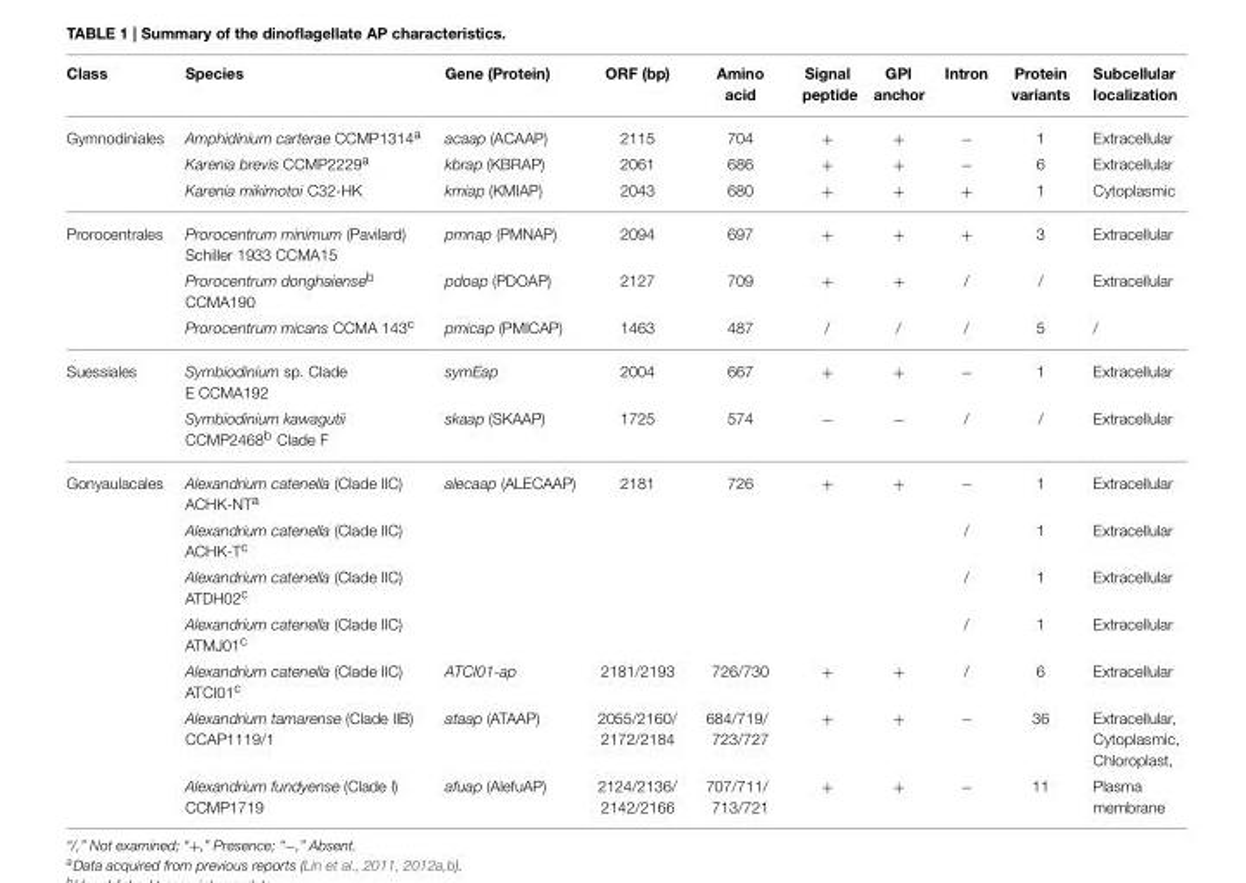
<table><thead><tr><td>Class</td><td>Species</td><td>Gene (Protein)</td><td>ORF (bp)</td><td>Amino acid</td><td>Signal peptide</td><td>GPI anchor</td><td>Intron</td><td>Protein variants</td><td>Subcellular localization</td></tr></thead><tbody><tr><td rowspan="3">Gymnodiniales</td><td>Amphidinium carterae CCMP1314<sup>a</sup></td><td>acaap (ACAAP)</td><td>2115</td><td>704</td><td>+</td><td>+</td><td>−</td><td>1</td><td>Extracellular</td></tr><tr><td>Karenia brevis CCMP2229<sup>a</sup></td><td>kbrap (KBRAP)</td><td>2061</td><td>686</td><td>+</td><td>+</td><td>−</td><td>6</td><td>Extracellular</td></tr><tr><td>Karenia mikimotoi C32-HK</td><td>kmiap (KMIAP)</td><td>2043</td><td>680</td><td>+</td><td>+</td><td>+</td><td>1</td><td>Cytoplasmic</td></tr><tr><td rowspan="3">Prorocentrales</td><td>Prorocentrum minimum (Pavilard) Schiller 1933 CCMA15</td><td>pmnap (PMNAP)</td><td>2094</td><td>697</td><td>+</td><td>+</td><td>+</td><td>3</td><td>Extracellular</td></tr><tr><td>Prorocentrum donghaiense<sup>b</sup> CCMA190</td><td>pdoap (PDOAP)</td><td>2127</td><td>709</td><td>+</td><td>+</td><td>/</td><td>/</td><td>Extracellular</td></tr><tr><td>Prorocentrum micans CCMA 143<sup>c</sup></td><td>pmicap (PMICAP)</td><td>1463</td><td>487</td><td>/</td><td>/</td><td>/</td><td>5</td><td>/</td></tr><tr><td rowspan="2">Suessiales</td><td>Symbiodinium sp. Clade E CCMA192</td><td>symEap</td><td>2004</td><td>667</td><td>+</td><td>+</td><td>−</td><td>1</td><td>Extracellular</td></tr><tr><td>Symbiodinium kawagutii CCMP2468<sup>b</sup> Clade F</td><td>skaap (SKAAP)</td><td>1725</td><td>574</td><td>−</td><td>−</td><td>/</td><td>/</td><td>Extracellular</td></tr><tr><td rowspan="7">Gonyaulacales</td><td>Alexandrium catenella (Clade IIC) ACHK-NT<sup>a</sup></td><td>alecaap (ALECAAP)</td><td>2181</td><td>726</td><td>+</td><td>+</td><td>−</td><td>1</td><td>Extracellular</td></tr><tr><td>Alexandrium catenella (Clade IIC) ACHK-T<sup>c</sup></td><td></td><td></td><td></td><td></td><td></td><td>/</td><td>1</td><td>Extracellular</td></tr><tr><td>Alexandrium catenella (Clade IIC) ATDH02<sup>c</sup></td><td></td><td></td><td></td><td></td><td></td><td>/</td><td>1</td><td>Extracellular</td></tr><tr><td>Alexandrium catenella (Clade IIC) ATMJ01<sup>c</sup></td><td></td><td></td><td></td><td></td><td></td><td>/</td><td>1</td><td>Extracellular</td></tr><tr><td>Alexandrium catenella (Clade IIC) ATCI01<sup>c</sup></td><td>ATCI01-ap</td><td>2181/2193</td><td>726/730</td><td>+</td><td>+</td><td>/</td><td>6</td><td>Extracellular</td></tr><tr><td>Alexandrium tamarense (Clade IIB) CCAP1119/1</td><td>ataap (ATAAP)</td><td>2055/2160/ 2172/2184</td><td>684/719/ 723/727</td><td>+</td><td>+</td><td>−</td><td>36</td><td>Extracellular, Cytoplasmic, Chloroplast,</td></tr><tr><td>Alexandrium fundyense (Clade I) CCMP1719</td><td>afuap (AlefuAP)</td><td>2124/2136/ 2142/2166</td><td>707/711/ 713/721</td><td>+</td><td>+</td><td>−</td><td>11</td><td>Plasma membrane</td></tr></tbody></table>